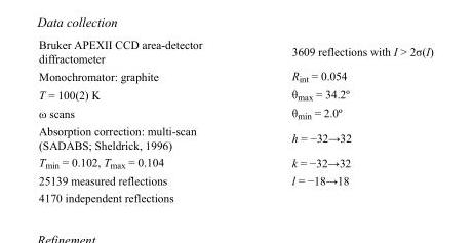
<table><tbody><tr><td>Bruker APEXII CCD area-detector diffractometer</td><td>3609 reflections with I &gt; 2σ(I)</td></tr><tr><td>Monochromator: graphite</td><td>R<sub>int</sub> = 0.054</td></tr><tr><td>T = 100(2) K</td><td>θ<sub>max</sub> = 34.2º</td></tr><tr><td>ω scans</td><td>θ<sub>min</sub> = 2.0º</td></tr><tr><td>Absorption correction: multi-scan (SADABS; Sheldrick, 1996)</td><td>h = −32→32</td></tr><tr><td>T<sub>min</sub> = 0.102, T<sub>max</sub> = 0.104</td><td>k = −32→32</td></tr><tr><td>25139 measured reflections</td><td>l = −18→18</td></tr><tr><td>4170 independent reflections</td><td></td></tr></tbody></table>